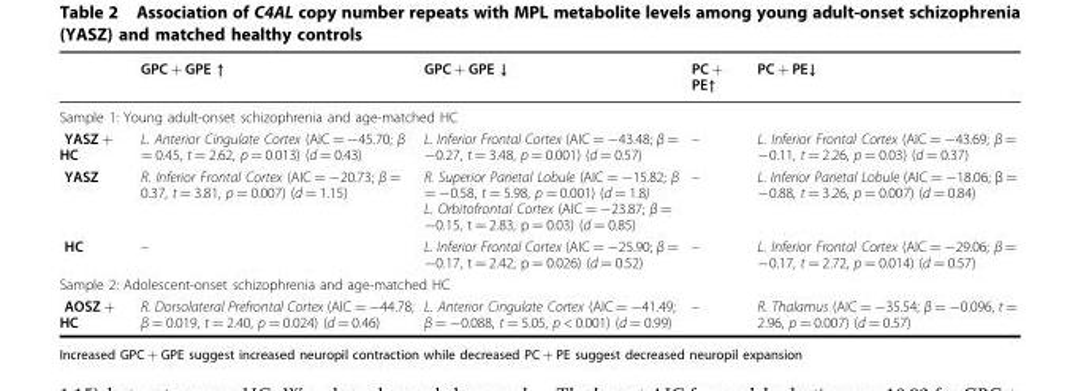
<table><thead><tr><td></td><td>GPC + GPE ↑</td><td>GPC + GPE ↓</td><td>PC + PE↑</td><td>PC + PE↓</td></tr></thead><tbody><tr><td colspan="5">Sample 1: Young adult-onset schizophrenia and age-matched HC</td></tr><tr><td>YASZ + HC</td><td>L. Anterior Cingulate Cortex (AIC = −45.70; β = 0.45, t = 2.62, p = 0.013) (d = 0.43)</td><td>L. Inferior Frontal Cortex (AIC = −43.48; β = −0.27, t = 3.48, p = 0.001) (d = 0.57)</td><td>–</td><td>L. Inferior Frontal Cortex (AIC = −43.69; β = −0.11, t = 2.26, p = 0.03) (d = 0.37)</td></tr><tr><td>YASZ</td><td>R. Inferior Frontal Cortex (AIC = −20.73; β = 0.37, t = 3.81, p = 0.007) (d = 1.15)</td><td>R. Superior Parietal Lobule (AIC = −15.82; β = −0.58, t = 5.98, p = 0.001) (d = 1.8) L. Orbitofrontal Cortex (AIC = −23.87; β = −0.15, t = 2.83, p = 0.03) (d = 0.85)</td><td>–</td><td>L. Inferior Parietal Lobule (AIC = −18.06; β = −0.88, t = 3.26, p = 0.007) (d = 0.84)</td></tr><tr><td>HC</td><td>–</td><td>L. Inferior Frontal Cortex (AIC = −25.90; β = −0.17, t = 2.42, p = 0.026) (d = 0.52)</td><td>–</td><td>L. Inferior Frontal Cortex (AIC = −29.06; β = −0.17, t = 2.72, p = 0.014) (d = 0.57)</td></tr><tr><td colspan="5">Sample 2: Adolescent-onset schizophrenia and age-matched HC</td></tr><tr><td>AOSZ + HC</td><td>R. Dorsolateral Prefrontal Cortex (AIC = −44.78; β = 0.019, t = 2.40, p = 0.024) (d = 0.46)</td><td>L. Anterior Cingulate Cortex (AIC = −41.49; β = −0.088, t = 5.05, p &lt; 0.001) (d = 0.99)</td><td>–</td><td>R. Thalamus (AIC = −35.54; β = −0.096, t = 2.96, p = 0.007) (d = 0.57)</td></tr></tbody></table>